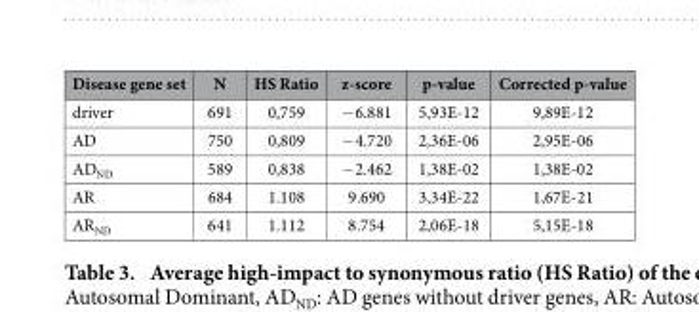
<table><thead><tr><td>Disease gene set</td><td>N</td><td>HS Ratio</td><td>z-score</td><td>p-value</td><td>Corrected p-value</td></tr></thead><tbody><tr><td>driver</td><td>691</td><td>0,759</td><td>− 6.881</td><td>5,93E-12</td><td>9,89E-12</td></tr><tr><td>AD</td><td>750</td><td>0,809</td><td>− 4.720</td><td>2,36E-06</td><td>2,95E-06</td></tr><tr><td>AD<sub>ND</sub></td><td>589</td><td>0,838</td><td>− 2.462</td><td>1,38E-02</td><td>1,38E-02</td></tr><tr><td>AR</td><td>684</td><td>1.108</td><td>9.690</td><td>3,34E-22</td><td>1,67E-21</td></tr><tr><td>AR<sub>ND</sub></td><td>641</td><td>1.112</td><td>8.754</td><td>2,06E-18</td><td>5,15E-18</td></tr></tbody></table>